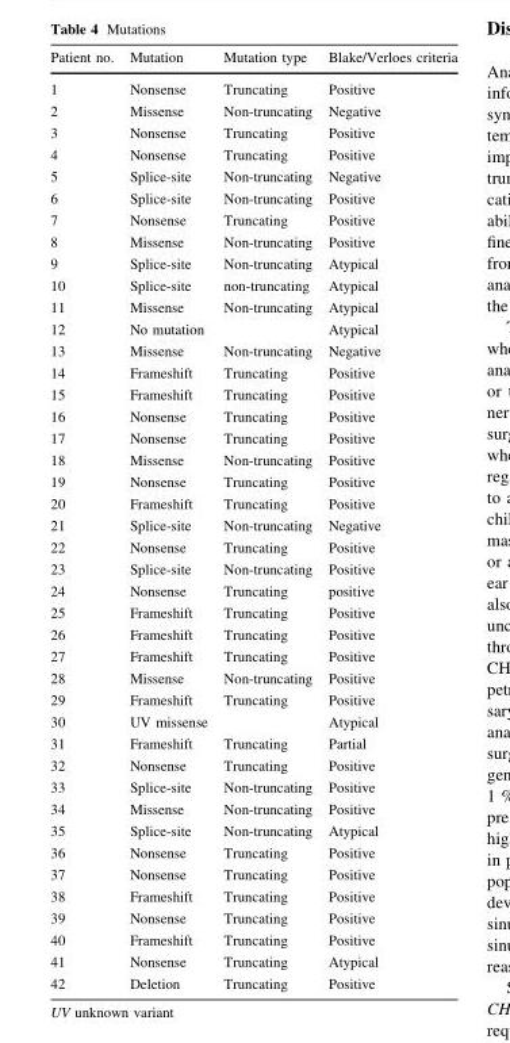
<table><thead><tr><td>Patient no.</td><td>Mutation</td><td>Mutation type</td><td>Blake/Verloes criteria</td></tr></thead><tbody><tr><td>1</td><td>Nonsense</td><td>Truncating</td><td>Positive</td></tr><tr><td>2</td><td>Missense</td><td>Non-truncating</td><td>Negative</td></tr><tr><td>3</td><td>Nonsense</td><td>Truncating</td><td>Positive</td></tr><tr><td>4</td><td>Nonsense</td><td>Truncating</td><td>Positive</td></tr><tr><td>5</td><td>Splice-site</td><td>Non-truncating</td><td>Negative</td></tr><tr><td>6</td><td>Splice-site</td><td>Non-truncating</td><td>Positive</td></tr><tr><td>7</td><td>Nonsense</td><td>Truncating</td><td>Positive</td></tr><tr><td>8</td><td>Missense</td><td>Non-truncating</td><td>Positive</td></tr><tr><td>9</td><td>Splice-site</td><td>Non-truncating</td><td>Atypical</td></tr><tr><td>10</td><td>Splice-site</td><td>non-truncating</td><td>Atypical</td></tr><tr><td>11</td><td>Missense</td><td>Non-truncating</td><td>Atypical</td></tr><tr><td>12</td><td>No mutation</td><td></td><td>Atypical</td></tr><tr><td>13</td><td>Missense</td><td>Non-truncating</td><td>Negative</td></tr><tr><td>14</td><td>Frameshift</td><td>Truncating</td><td>Positive</td></tr><tr><td>15</td><td>Frameshift</td><td>Truncating</td><td>Positive</td></tr><tr><td>16</td><td>Nonsense</td><td>Truncating</td><td>Positive</td></tr><tr><td>17</td><td>Nonsense</td><td>Truncating</td><td>Positive</td></tr><tr><td>18</td><td>Missense</td><td>Non-truncating</td><td>Positive</td></tr><tr><td>19</td><td>Nonsense</td><td>Truncating</td><td>Positive</td></tr><tr><td>20</td><td>Frameshift</td><td>Truncating</td><td>Positive</td></tr><tr><td>21</td><td>Splice-site</td><td>Non-truncating</td><td>Negative</td></tr><tr><td>22</td><td>Nonsense</td><td>Truncating</td><td>Positive</td></tr><tr><td>23</td><td>Splice-site</td><td>Non-truncating</td><td>Positive</td></tr><tr><td>24</td><td>Nonsense</td><td>Truncating</td><td>positive</td></tr><tr><td>25</td><td>Frameshift</td><td>Truncating</td><td>Positive</td></tr><tr><td>26</td><td>Frameshift</td><td>Truncating</td><td>Positive</td></tr><tr><td>27</td><td>Frameshift</td><td>Truncating</td><td>Positive</td></tr><tr><td>28</td><td>Missense</td><td>Non-truncating</td><td>Positive</td></tr><tr><td>29</td><td>Frameshift</td><td>Truncating</td><td>Positive</td></tr><tr><td>30</td><td>UV missense</td><td></td><td>Atypical</td></tr><tr><td>31</td><td>Frameshift</td><td>Truncating</td><td>Partial</td></tr><tr><td>32</td><td>Nonsense</td><td>Truncating</td><td>Positive</td></tr><tr><td>33</td><td>Splice-site</td><td>Non-truncating</td><td>Positive</td></tr><tr><td>34</td><td>Missense</td><td>Non-truncating</td><td>Positive</td></tr><tr><td>35</td><td>Splice-site</td><td>Non-truncating</td><td>Atypical</td></tr><tr><td>36</td><td>Nonsense</td><td>Truncating</td><td>Positive</td></tr><tr><td>37</td><td>Nonsense</td><td>Truncating</td><td>Positive</td></tr><tr><td>38</td><td>Frameshift</td><td>Truncating</td><td>Positive</td></tr><tr><td>39</td><td>Nonsense</td><td>Truncating</td><td>Positive</td></tr><tr><td>40</td><td>Frameshift</td><td>Truncating</td><td>Positive</td></tr><tr><td>41</td><td>Nonsense</td><td>Truncating</td><td>Atypical</td></tr><tr><td>42</td><td>Deletion</td><td>Truncating</td><td>Positive</td></tr></tbody></table>